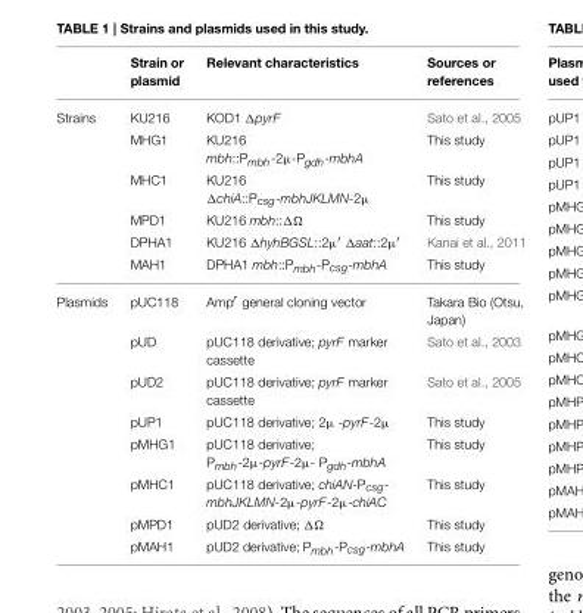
<table><thead><tr><td></td><td>Strain or plasmid</td><td>Relevant characteristics</td><td>Sources or references</td></tr></thead><tbody><tr><td rowspan="6">Strains</td><td>KU216</td><td>KOD1 ΔpyrF</td><td>Sato et al., 2005</td></tr><tr><td>MHG1</td><td>KU216 mbh::Pmbh-2µ-Pgdh-mbhA</td><td>This study</td></tr><tr><td>MHC1</td><td>KU216 ΔchiA::Pcsg-mbhJKLMN-2µ</td><td>This study</td></tr><tr><td>MPD1</td><td>KU216 mbh::ΔΩ</td><td>This study</td></tr><tr><td>DPHA1</td><td>KU216 ΔhyhBGSL::2µ′ Δaat::2µ′</td><td>Kanai et al., 2011</td></tr><tr><td>MAH1</td><td>DPHA1 mbh::Pmbh-Pcsg-mbhA</td><td>This study</td></tr><tr><td rowspan="8">Plasmids</td><td>pUC118</td><td>Amp<sup>r</sup> general cloning vector</td><td>Takara Bio (Otsu, Japan)</td></tr><tr><td>pUD</td><td>pUC118 derivative; pyrF marker cassette</td><td>Sato et al., 2003</td></tr><tr><td>pUD2</td><td>pUC118 derivative; pyrF marker cassette</td><td>Sato et al., 2005</td></tr><tr><td>pUP1</td><td>pUC118 derivative; 2µ -pyrF-2µ</td><td>This study</td></tr><tr><td>pMHG1</td><td>pUC118 derivative; Pmbh-2µ-pyrF-2µ- Pgdh-mbhA</td><td>This study</td></tr><tr><td>pMHC1</td><td>pUC118 derivative; chiAN-Pcsg- mbhJKLMN-2µ-pyrF-2µ-chiAC</td><td>This study</td></tr><tr><td>pMPD1</td><td>pUD2 derivative; ΔΩ</td><td>This study</td></tr><tr><td>pMAH1</td><td>pUD2 derivative; Pmbh-Pcsg-mbhA</td><td>This study</td></tr></tbody></table>